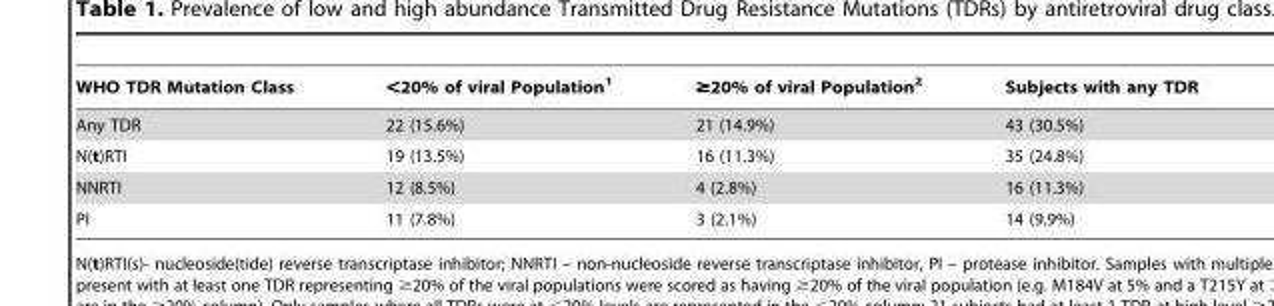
<table><thead><tr><td>WHO TDR Mutation Class</td><td>&lt;20% of viral Population<sup>1</sup></td><td>≥20% of viral Population<sup>2</sup></td><td>Subjects with any TDR</td></tr></thead><tbody><tr><td>Any TDR</td><td>22 (15.6%)</td><td>21 (14.9%)</td><td>43 (30.5%)</td></tr><tr><td>N(t)RTI</td><td>19 (13.5%)</td><td>16 (11.3%)</td><td>35 (24.8%)</td></tr><tr><td>NNRTI</td><td>12 (8.5%)</td><td>4 (2.8%)</td><td>16 (11.3%)</td></tr><tr><td>PI</td><td>11 (7.8%)</td><td>3 (2.1%)</td><td>14 (9.9%)</td></tr></tbody></table>